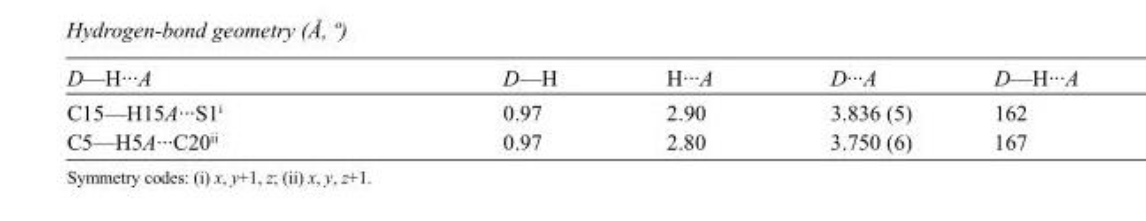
<table><tbody><tr><td>D—H···A</td><td>D—H</td><td>H···A</td><td>D···A</td><td>D—H···A</td></tr><tr><td>C15—H15A···S1<sup>i</sup></td><td>0.97</td><td>2.90</td><td>3.836 (5)</td><td>162</td></tr><tr><td>C5—H5A···C20<sup>ii</sup></td><td>0.97</td><td>2.80</td><td>3.750 (6)</td><td>167</td></tr></tbody></table>